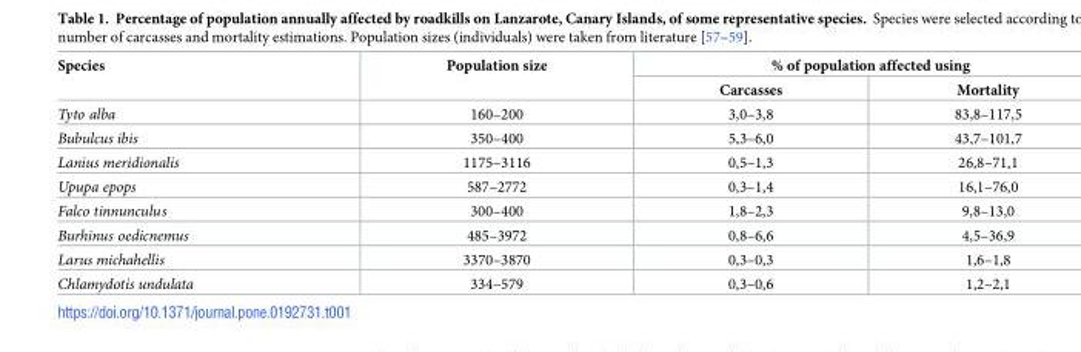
<table><thead><tr><td rowspan="2">Species</td><td rowspan="2">Population size</td><td colspan="2">% of population affected using</td></tr><tr><td>Carcasses</td><td>Mortality</td></tr></thead><tbody><tr><td>Tyto alba</td><td>160–200</td><td>3,0–3,8</td><td>83,8–117,5</td></tr><tr><td>Bubulcus ibis</td><td>350–400</td><td>5,3–6,0</td><td>43,7–101,7</td></tr><tr><td>Lanius meridionalis</td><td>1175–3116</td><td>0,5–1,3</td><td>26,8–71,1</td></tr><tr><td>Upupa epops</td><td>587–2772</td><td>0,3–1,4</td><td>16,1–76,0</td></tr><tr><td>Falco tinnunculus</td><td>300–400</td><td>1,8–2,3</td><td>9,8–13,0</td></tr><tr><td>Burhinus oedicnemus</td><td>485–3972</td><td>0,8–6,6</td><td>4,5–36,9</td></tr><tr><td>Larus michahellis</td><td>3370–3870</td><td>0,3–0,3</td><td>1,6–1,8</td></tr><tr><td>Chlamydotis undulata</td><td>334–579</td><td>0,3–0,6</td><td>1,2–2,1</td></tr></tbody></table>